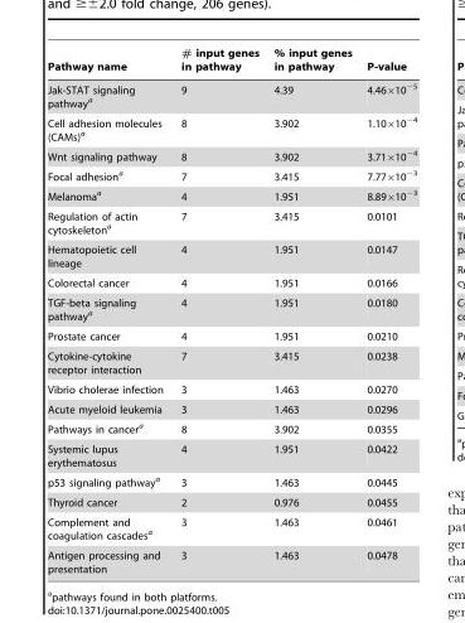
<table><thead><tr><td>Pathway name</td><td># input genes in pathway</td><td>% input genes in pathway</td><td>P-value</td></tr></thead><tbody><tr><td>Jak-STAT signaling pathway<sup>a</sup></td><td>9</td><td>4.39</td><td>4.46×10<sup>−5</sup></td></tr><tr><td>Cell adhesion molecules (CAMs)<sup>a</sup></td><td>8</td><td>3.902</td><td>1.10×10<sup>−4</sup></td></tr><tr><td>Wnt signaling pathway</td><td>8</td><td>3.902</td><td>3.71×10<sup>−4</sup></td></tr><tr><td>Focal adhesion<sup>a</sup></td><td>7</td><td>3.415</td><td>7.77×10<sup>−3</sup></td></tr><tr><td>Melanoma<sup>a</sup></td><td>4</td><td>1.951</td><td>8.89×10<sup>−3</sup></td></tr><tr><td>Regulation of actin cytoskeleton<sup>a</sup></td><td>7</td><td>3.415</td><td>0.0101</td></tr><tr><td>Hematopoietic cell lineage</td><td>4</td><td>1.951</td><td>0.0147</td></tr><tr><td>Colorectal cancer</td><td>4</td><td>1.951</td><td>0.0166</td></tr><tr><td>TGF-beta signaling pathway<sup>a</sup></td><td>4</td><td>1.951</td><td>0.0180</td></tr><tr><td>Prostate cancer</td><td>4</td><td>1.951</td><td>0.0210</td></tr><tr><td>Cytokine-cytokine receptor interaction</td><td>7</td><td>3.415</td><td>0.0238</td></tr><tr><td>Vibrio cholerae infection</td><td>3</td><td>1.463</td><td>0.0270</td></tr><tr><td>Acute myeloid leukemia</td><td>3</td><td>1.463</td><td>0.0296</td></tr><tr><td>Pathways in cancer<sup>a</sup></td><td>8</td><td>3.902</td><td>0.0355</td></tr><tr><td>Systemic lupus erythematosus</td><td>4</td><td>1.951</td><td>0.0422</td></tr><tr><td>p53 signaling pathway<sup>a</sup></td><td>3</td><td>1.463</td><td>0.0445</td></tr><tr><td>Thyroid cancer</td><td>2</td><td>0.976</td><td>0.0455</td></tr><tr><td>Complement and coagulation cascades<sup>a</sup></td><td>3</td><td>1.463</td><td>0.0461</td></tr><tr><td>Antigen processing and presentation</td><td>3</td><td>1.463</td><td>0.0478</td></tr></tbody></table>